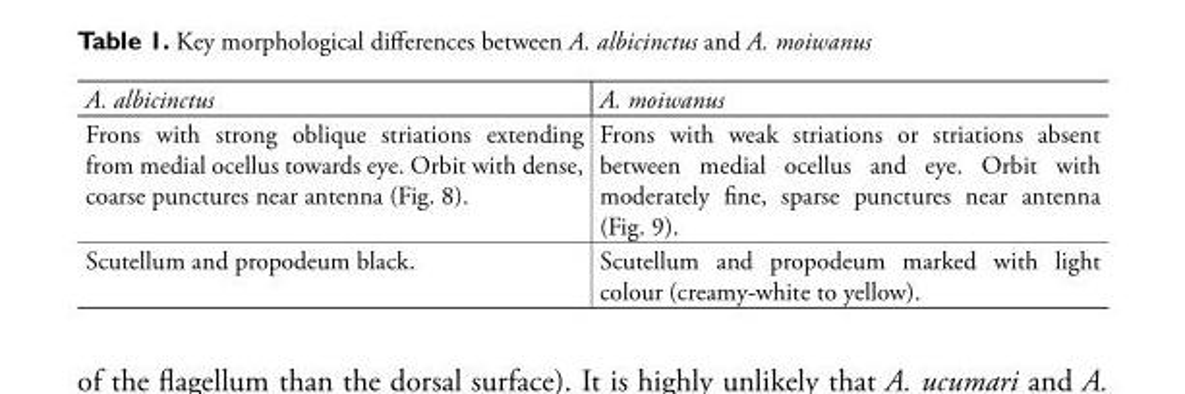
<table><tbody><tr><td>A. albicinctus</td><td>A. moiwanus</td></tr><tr><td>Frons with strong oblique striations extending from medial ocellus towards eye. Orbit with dense, coarse punctures near antenna (Fig. 8).</td><td>Frons with weak striations or striations absent between medial ocellus and eye. Orbit with moderately fine, sparse punctures near antenna (Fig. 9).</td></tr><tr><td>Scutellum and propodeum black.</td><td>Scutellum and propodeum marked with light colour (creamy-white to yellow).</td></tr></tbody></table>